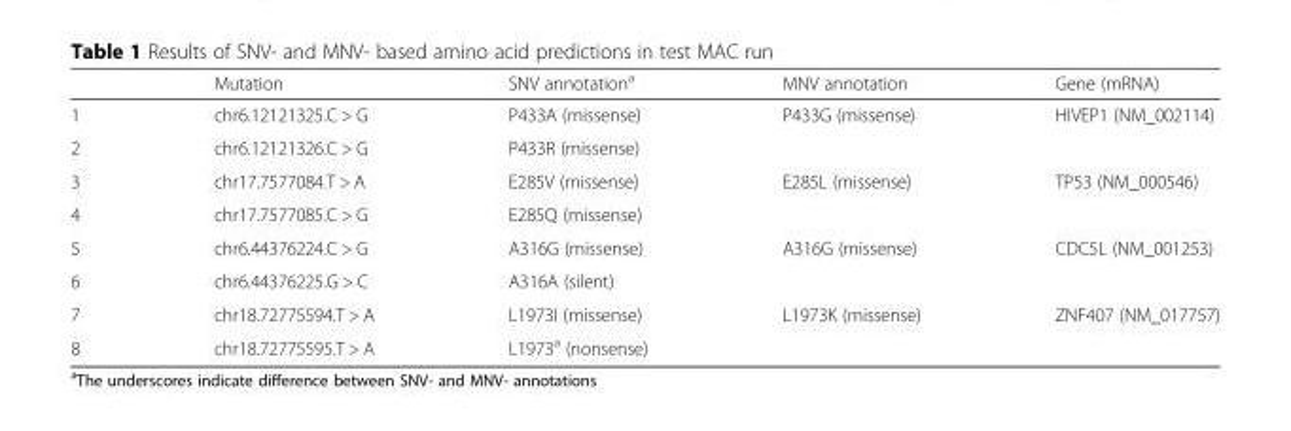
<table><thead><tr><td></td><td>Mutation</td><td>SNV annotation<sup>a</sup></td><td>MNV annotation</td><td>Gene (mRNA)</td></tr></thead><tbody><tr><td>1</td><td>chr6.12121325.C &gt; G</td><td>P433A (missense)</td><td rowspan="2">P433G (missense)</td><td rowspan="2">HIVEP1 (NM_002114)</td></tr><tr><td>2</td><td>chr6.12121326.C &gt; G</td><td>P433R (missense)</td></tr><tr><td>3</td><td>chr17.7577084.T &gt; A</td><td>E285V (missense)</td><td rowspan="2">E285L (missense)</td><td rowspan="2">TP53 (NM_000546)</td></tr><tr><td>4</td><td>chr17.7577085.C &gt; G</td><td>E285Q (missense)</td></tr><tr><td>5</td><td>chr6.44376224.C &gt; G</td><td>A316G (missense)</td><td rowspan="2">A316G (missense)</td><td rowspan="2">CDC5L (NM_001253)</td></tr><tr><td>6</td><td>chr6.44376225.G &gt; C</td><td>A316A (silent)</td></tr><tr><td>7</td><td>chr18.72775594.T &gt; A</td><td>L1973I (missense)</td><td rowspan="2">L1973K (missense)</td><td rowspan="2">ZNF407 (NM_017757)</td></tr><tr><td>8</td><td>chr18.72775595.T &gt; A</td><td>L1973<sup>a</sup> (nonsense)</td></tr></tbody></table>